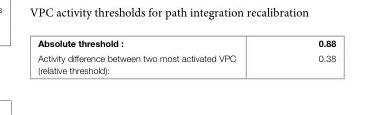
<table><tbody><tr><td>Absolute threshold :</td><td>0.88</td></tr><tr><td>Activity difference between two most activated VPC (relative threshold):</td><td>0.38</td></tr></tbody></table>